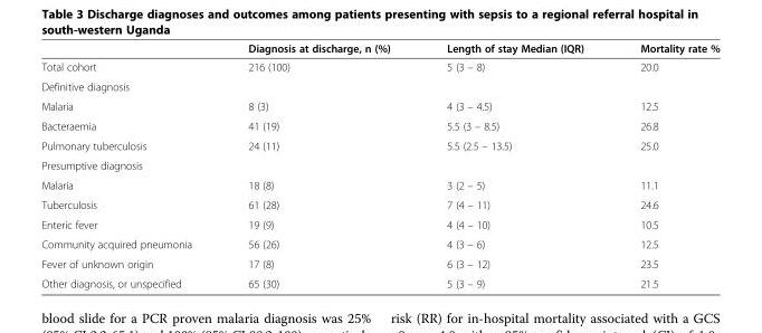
<table><thead><tr><td></td><td>Diagnosis at discharge, n (%)</td><td>Length of stay Median (IQR)</td><td>Mortality rate %</td></tr></thead><tbody><tr><td>Total cohort</td><td>216 (100)</td><td>5 (3 – 8)</td><td>20.0</td></tr><tr><td colspan="4">Definitive diagnosis</td></tr><tr><td>Malaria</td><td>8 (3)</td><td>4 (3 – 4.5)</td><td>12.5</td></tr><tr><td>Bacteraemia</td><td>41 (19)</td><td>5.5 (3 – 8.5)</td><td>26.8</td></tr><tr><td>Pulmonary tuberculosis</td><td>24 (11)</td><td>5.5 (2.5 – 13.5)</td><td>25.0</td></tr><tr><td colspan="4">Presumptive diagnosis</td></tr><tr><td>Malaria</td><td>18 (8)</td><td>3 (2 – 5)</td><td>11.1</td></tr><tr><td>Tuberculosis</td><td>61 (28)</td><td>7 (4 – 11)</td><td>24.6</td></tr><tr><td>Enteric fever</td><td>19 (9)</td><td>4 (4 – 10)</td><td>10.5</td></tr><tr><td>Community acquired pneumonia</td><td>56 (26)</td><td>4 (3 – 6)</td><td>12.5</td></tr><tr><td>Fever of unknown origin</td><td>17 (8)</td><td>6 (3 – 12)</td><td>23.5</td></tr><tr><td>Other diagnosis, or unspecified</td><td>65 (30)</td><td>5 (3 – 9)</td><td>21.5</td></tr></tbody></table>